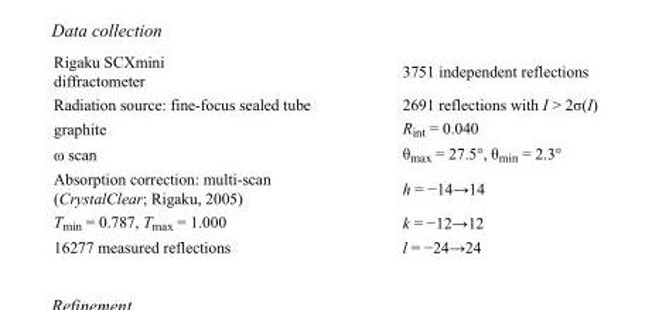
<table><tbody><tr><td>Rigaku SCXmini diffractometer</td><td>3751 independent reflections</td></tr><tr><td>Radiation source: fine-focus sealed tube</td><td>2691 reflections with I &gt; 2σ(I)</td></tr><tr><td>graphite</td><td>R<sub>int</sub> = 0.040</td></tr><tr><td>ω scan</td><td>θ<sub>max</sub> = 27.5°, θ<sub>min</sub> = 2.3°</td></tr><tr><td>Absorption correction: multi-scan (CrystalClear; Rigaku, 2005)</td><td>h = −14→14</td></tr><tr><td>T<sub>min</sub> = 0.787, T<sub>max</sub> = 1.000</td><td>k = −12→12</td></tr><tr><td>16277 measured reflections</td><td>l = −24→24</td></tr></tbody></table>